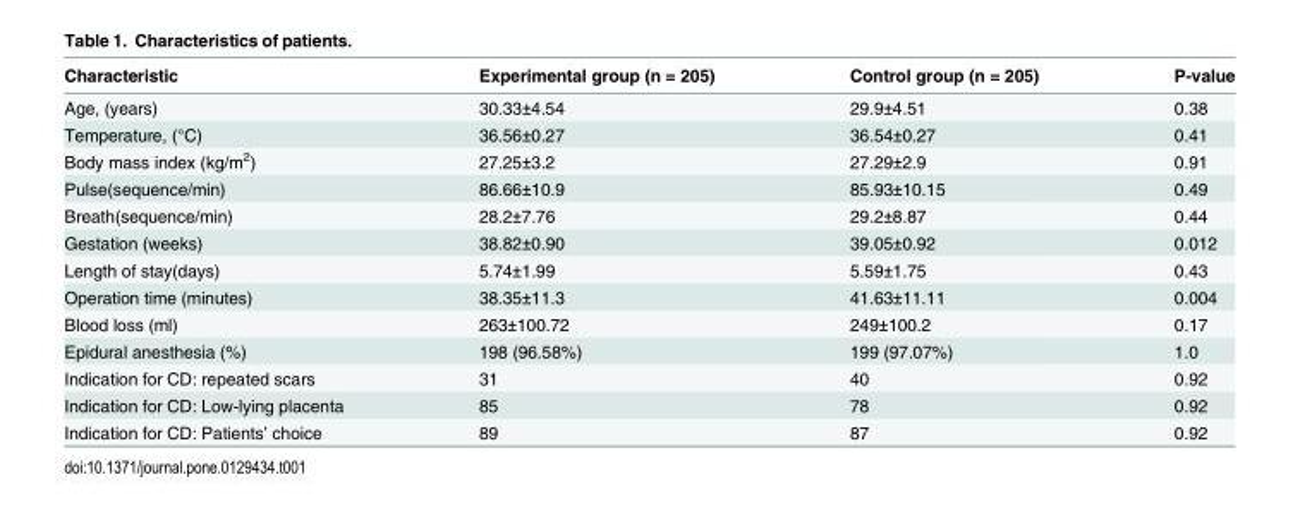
<table><thead><tr><td>Characteristic</td><td>Experimental group (n = 205)</td><td>Control group (n = 205)</td><td>P-value</td></tr></thead><tbody><tr><td>Age, (years)</td><td>30.33±4.54</td><td>29.9±4.51</td><td>0.38</td></tr><tr><td>Temperature, (°C)</td><td>36.56±0.27</td><td>36.54±0.27</td><td>0.41</td></tr><tr><td>Body mass index (kg/m<sup>2</sup>)</td><td>27.25±3.2</td><td>27.29±2.9</td><td>0.91</td></tr><tr><td>Pulse(sequence/min)</td><td>86.66±10.9</td><td>85.93±10.15</td><td>0.49</td></tr><tr><td>Breath(sequence/min)</td><td>28.2±7.76</td><td>29.2±8.87</td><td>0.44</td></tr><tr><td>Gestation (weeks)</td><td>38.82±0.90</td><td>39.05±0.92</td><td>0.012</td></tr><tr><td>Length of stay(days)</td><td>5.74±1.99</td><td>5.59±1.75</td><td>0.43</td></tr><tr><td>Operation time (minutes)</td><td>38.35±11.3</td><td>41.63±11.11</td><td>0.004</td></tr><tr><td>Blood loss (ml)</td><td>263±100.72</td><td>249±100.2</td><td>0.17</td></tr><tr><td>Epidural anesthesia (%)</td><td>198 (96.58%)</td><td>199 (97.07%)</td><td>1.0</td></tr><tr><td>Indication for CD: repeated scars</td><td>31</td><td>40</td><td>0.92</td></tr><tr><td>Indication for CD: Low-lying placenta</td><td>85</td><td>78</td><td>0.92</td></tr><tr><td>Indication for CD: Patients’ choice</td><td>89</td><td>87</td><td>0.92</td></tr></tbody></table>